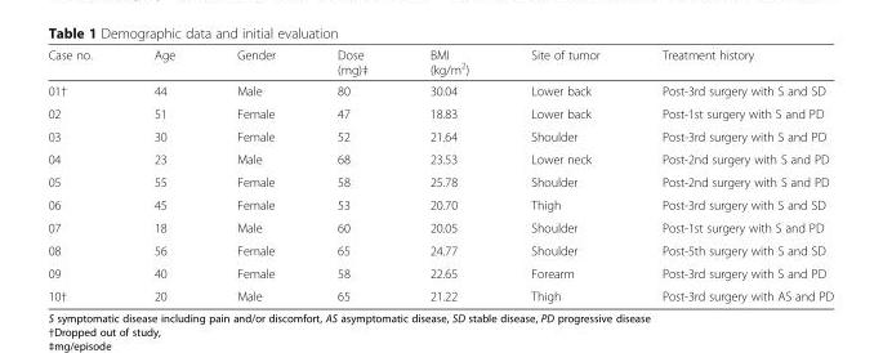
<table><thead><tr><td>Case no.</td><td>Age</td><td>Gender</td><td>Dose (mg)‡</td><td>BMI (kg/m<sup>2</sup>)</td><td>Site of tumor</td><td>Treatment history</td></tr></thead><tbody><tr><td>01†</td><td>44</td><td>Male</td><td>80</td><td>30.04</td><td>Lower back</td><td>Post-3rd surgery with S and SD</td></tr><tr><td>02</td><td>51</td><td>Female</td><td>47</td><td>18.83</td><td>Lower back</td><td>Post-1st surgery with S and PD</td></tr><tr><td>03</td><td>30</td><td>Female</td><td>52</td><td>21.64</td><td>Shoulder</td><td>Post-3rd surgery with S and PD</td></tr><tr><td>04</td><td>23</td><td>Male</td><td>68</td><td>23.53</td><td>Lower neck</td><td>Post-2nd surgery with S and PD</td></tr><tr><td>05</td><td>55</td><td>Female</td><td>58</td><td>25.78</td><td>Shoulder</td><td>Post-2nd surgery with S and PD</td></tr><tr><td>06</td><td>45</td><td>Female</td><td>53</td><td>20.70</td><td>Thigh</td><td>Post-3rd surgery with S and SD</td></tr><tr><td>07</td><td>18</td><td>Male</td><td>60</td><td>20.05</td><td>Shoulder</td><td>Post-1st surgery with S and PD</td></tr><tr><td>08</td><td>56</td><td>Female</td><td>65</td><td>24.77</td><td>Shoulder</td><td>Post-5th surgery with S and SD</td></tr><tr><td>09</td><td>40</td><td>Female</td><td>58</td><td>22.65</td><td>Forearm</td><td>Post-3rd surgery with S and PD</td></tr><tr><td>10†</td><td>20</td><td>Male</td><td>65</td><td>21.22</td><td>Thigh</td><td>Post-3rd surgery with AS and PD</td></tr></tbody></table>